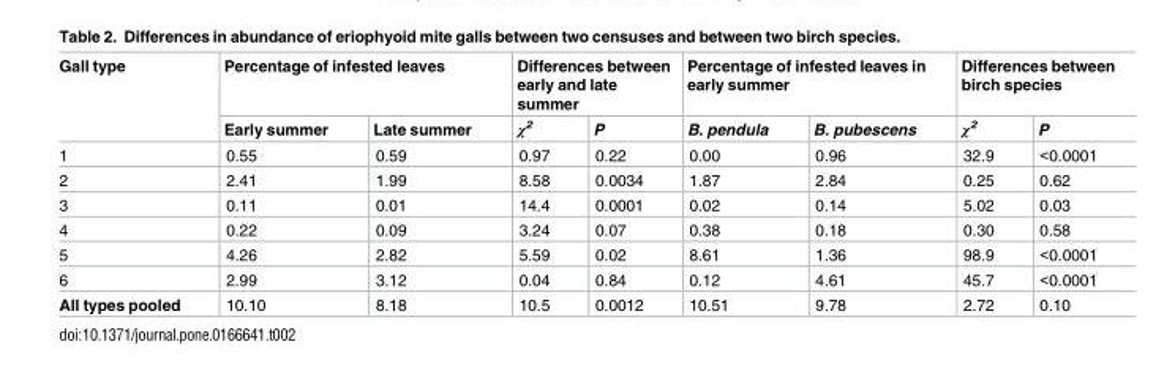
<table><thead><tr><td rowspan="2">Gall type</td><td colspan="2">Percentage of infested leaves</td><td colspan="2">Differences between early and late summer</td><td colspan="2">Percentage of infested leaves in early summer</td><td colspan="2">Differences between birch species</td></tr><tr><td>Early summer</td><td>Late summer</td><td>χ<sup>2</sup></td><td>P</td><td>B. pendula</td><td>B. pubescens</td><td>χ<sup>2</sup></td><td>P</td></tr></thead><tbody><tr><td>1</td><td>0.55</td><td>0.59</td><td>0.97</td><td>0.22</td><td>0.00</td><td>0.96</td><td>32.9</td><td>&lt;0.0001</td></tr><tr><td>2</td><td>2.41</td><td>1.99</td><td>8.58</td><td>0.0034</td><td>1.87</td><td>2.84</td><td>0.25</td><td>0.62</td></tr><tr><td>3</td><td>0.11</td><td>0.01</td><td>14.4</td><td>0.0001</td><td>0.02</td><td>0.14</td><td>5.02</td><td>0.03</td></tr><tr><td>4</td><td>0.22</td><td>0.09</td><td>3.24</td><td>0.07</td><td>0.38</td><td>0.18</td><td>0.30</td><td>0.58</td></tr><tr><td>5</td><td>4.26</td><td>2.82</td><td>5.59</td><td>0.02</td><td>8.61</td><td>1.36</td><td>98.9</td><td>&lt;0.0001</td></tr><tr><td>6</td><td>2.99</td><td>3.12</td><td>0.04</td><td>0.84</td><td>0.12</td><td>4.61</td><td>45.7</td><td>&lt;0.0001</td></tr><tr><td>All types pooled</td><td>10.10</td><td>8.18</td><td>10.5</td><td>0.0012</td><td>10.51</td><td>9.78</td><td>2.72</td><td>0.10</td></tr></tbody></table>